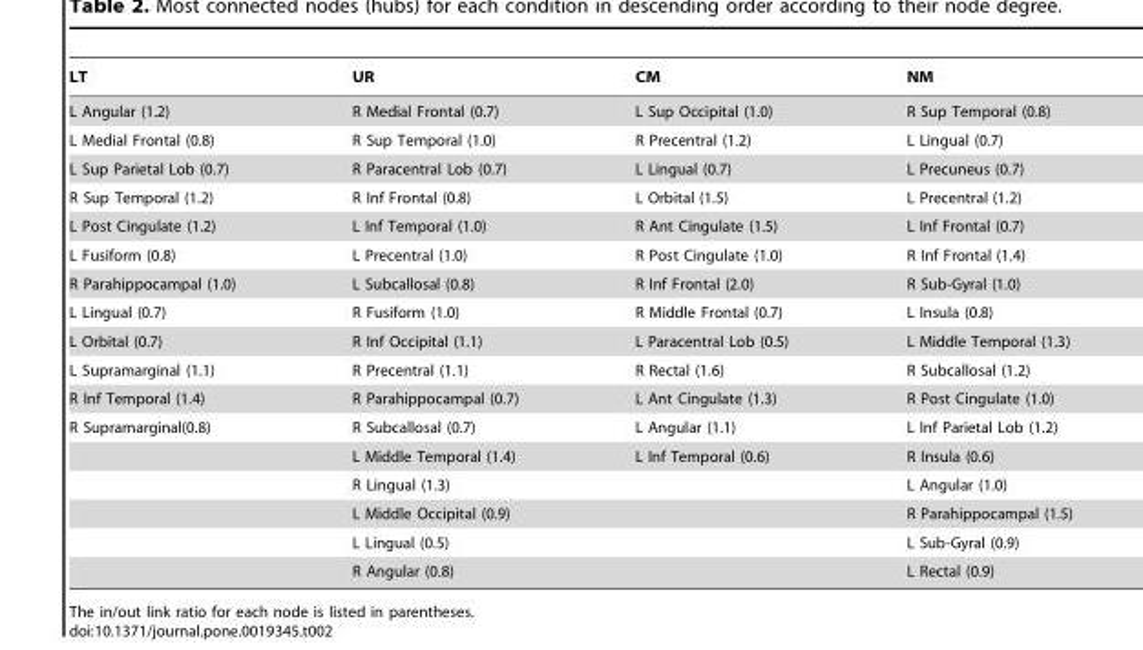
<table><thead><tr><td>LT</td><td>UR</td><td>CM</td><td>NM</td></tr></thead><tbody><tr><td>L Angular (1.2)</td><td>R Medial Frontal (0.7)</td><td>L Sup Occipital (1.0)</td><td>R Sup Temporal (0.8)</td></tr><tr><td>L Medial Frontal (0.8)</td><td>R Sup Temporal (1.0)</td><td>R Precentral (1.2)</td><td>L Lingual (0.7)</td></tr><tr><td>L Sup Parietal Lob (0.7)</td><td>R Paracentral Lob (0.7)</td><td>L Lingual (0.7)</td><td>L Precuneus (0.7)</td></tr><tr><td>R Sup Temporal (1.2)</td><td>R Inf Frontal (0.8)</td><td>L Orbital (1.5)</td><td>L Precentral (1.2)</td></tr><tr><td>L Post Cingulate (1.2)</td><td>L Inf Temporal (1.0)</td><td>R Ant Cingulate (1.5)</td><td>L Inf Frontal (0.7)</td></tr><tr><td>L Fusiform (0.8)</td><td>L Precentral (1.0)</td><td>R Post Cingulate (1.0)</td><td>R Inf Frontal (1.4)</td></tr><tr><td>R Parahippocampal (1.0)</td><td>L Subcallosal (0.8)</td><td>R Inf Frontal (2.0)</td><td>R Sub-Gyral (1.0)</td></tr><tr><td>L Lingual (0.7)</td><td>R Fusiform (1.0)</td><td>R Middle Frontal (0.7)</td><td>L Insula (0.8)</td></tr><tr><td>L Orbital (0.7)</td><td>R Inf Occipital (1.1)</td><td>L Paracentral Lob (0.5)</td><td>L Middle Temporal (1.3)</td></tr><tr><td>L Supramarginal (1.1)</td><td>R Precentral (1.1)</td><td>R Rectal (1.6)</td><td>R Subcallosal (1.2)</td></tr><tr><td>R Inf Temporal (1.4)</td><td>R Parahippocampal (0.7)</td><td>L Ant Cingulate (1.3)</td><td>R Post Cingulate (1.0)</td></tr><tr><td rowspan="6">R Supramarginal(0.8)</td><td>R Subcallosal (0.7)</td><td>L Angular (1.1)</td><td>L Inf Parietal Lob (1.2)</td></tr><tr><td>L Middle Temporal (1.4)</td><td>L Inf Temporal (0.6)</td><td>R Insula (0.6)</td></tr><tr><td>R Lingual (1.3)</td><td></td><td>L Angular (1.0)</td></tr><tr><td>L Middle Occipital (0.9)</td><td></td><td>R Parahippocampal (1.5)</td></tr><tr><td>L Lingual (0.5)</td><td></td><td>L Sub-Gyral (0.9)</td></tr><tr><td>R Angular (0.8)</td><td></td><td>L Rectal (0.9)</td></tr></tbody></table>